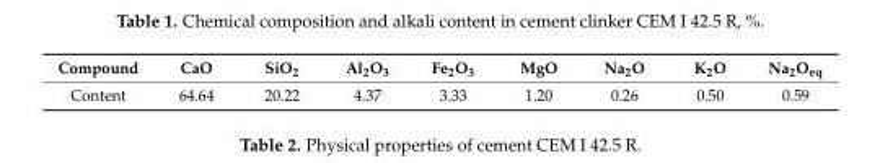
<table><thead><tr><td>Compound</td><td>CaO</td><td>SiO<sub>2</sub></td><td>Al<sub>2</sub>O<sub>3</sub></td><td>Fe<sub>2</sub>O<sub>3</sub></td><td>MgO</td><td>Na<sub>2</sub>O</td><td>K<sub>2</sub>O</td><td>Na<sub>2</sub>O<sub>eq</sub></td></tr></thead><tbody><tr><td>Content</td><td>64.64</td><td>20.22</td><td>4.37</td><td>3.33</td><td>1.20</td><td>0.26</td><td>0.50</td><td>0.59</td></tr></tbody></table>